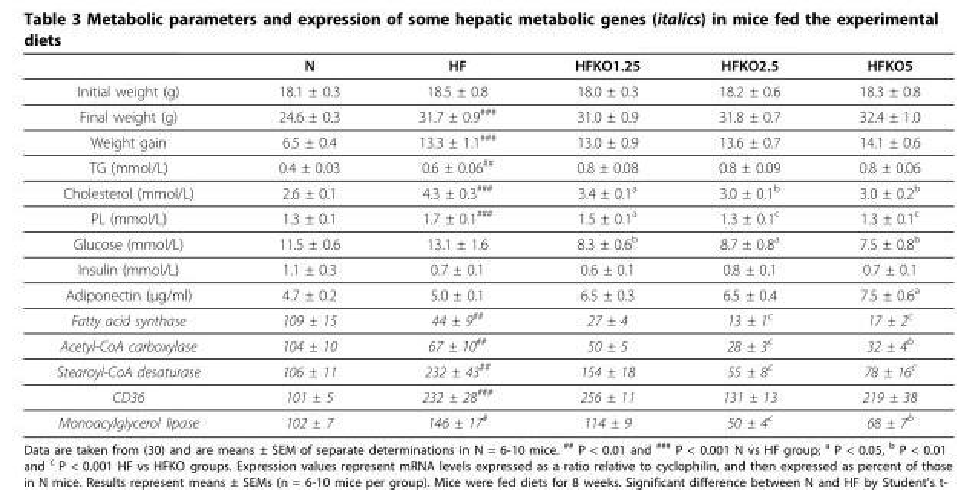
<table><thead><tr><td></td><td>N</td><td>HF</td><td>HFKO1.25</td><td>HFKO2.5</td><td>HFKO5</td></tr></thead><tbody><tr><td>Initial weight (g)</td><td>18.1 ± 0.3</td><td>18.5 ± 0.8</td><td>18.0 ± 0.3</td><td>18.2 ± 0.6</td><td>18.3 ± 0.8</td></tr><tr><td>Final weight (g)</td><td>24.6 ± 0.3</td><td>31.7 ± 0.9<sup>###</sup></td><td>31.0 ± 0.9</td><td>31.8 ± 0.7</td><td>32.4 ± 1.0</td></tr><tr><td>Weight gain</td><td>6.5 ± 0.4</td><td>13.3 ± 1.1<sup>###</sup></td><td>13.0 ± 0.9</td><td>13.6 ± 0.7</td><td>14.1 ± 0.6</td></tr><tr><td>TG (mmol/L)</td><td>0.4 ± 0.03</td><td>0.6 ± 0.06<sup>##</sup></td><td>0.8 ± 0.08</td><td>0.8 ± 0.09</td><td>0.8 ± 0.06</td></tr><tr><td>Cholesterol (mmol/L)</td><td>2.6 ± 0.1</td><td>4.3 ± 0.3<sup>###</sup></td><td>3.4 ± 0.1<sup>a</sup></td><td>3.0 ± 0.1<sup>b</sup></td><td>3.0 ± 0.2<sup>b</sup></td></tr><tr><td>PL (mmol/L)</td><td>1.3 ± 0.1</td><td>1.7 ± 0.1<sup>###</sup></td><td>1.5 ± 0.1<sup>a</sup></td><td>1.3 ± 0.1<sup>c</sup></td><td>1.3 ± 0.1<sup>c</sup></td></tr><tr><td>Glucose (mmol/L)</td><td>11.5 ± 0.6</td><td>13.1 ± 1.6</td><td>8.3 ± 0.6<sup>b</sup></td><td>8.7 ± 0.8<sup>a</sup></td><td>7.5 ± 0.8<sup>b</sup></td></tr><tr><td>Insulin (mmol/L)</td><td>1.1 ± 0.3</td><td>0.7 ± 0.1</td><td>0.6 ± 0.1</td><td>0.8 ± 0.1</td><td>0.7 ± 0.1</td></tr><tr><td>Adiponectin (μg/ml)</td><td>4.7 ± 0.2</td><td>5.0 ± 0.1</td><td>6.5 ± 0.3</td><td>6.5 ± 0.4</td><td>7.5 ± 0.6<sup>a</sup></td></tr><tr><td>Fatty acid synthase</td><td>109 ± 15</td><td>44 ± 9<sup>##</sup></td><td>27 ± 4</td><td>13 ± 1<sup>c</sup></td><td>17 ± 2<sup>c</sup></td></tr><tr><td>Acetyl-CoA carboxylase</td><td>104 ± 10</td><td>67 ± 10<sup>##</sup></td><td>50 ± 5</td><td>28 ± 3<sup>c</sup></td><td>32 ± 4<sup>b</sup></td></tr><tr><td>Stearoyl-CoA desaturase</td><td>106 ± 11</td><td>232 ± 43<sup>##</sup></td><td>154 ± 18</td><td>55 ± 8<sup>c</sup></td><td>78 ± 16<sup>c</sup></td></tr><tr><td>CD36</td><td>101 ± 5</td><td>232 ± 28<sup>###</sup></td><td>256 ± 11</td><td>131 ± 13</td><td>219 ± 38</td></tr><tr><td>Monoacylglycerol lipase</td><td>102 ± 7</td><td>146 ± 17<sup>#</sup></td><td>114 ± 9</td><td>50 ± 4<sup>c</sup></td><td>68 ± 7<sup>b</sup></td></tr></tbody></table>